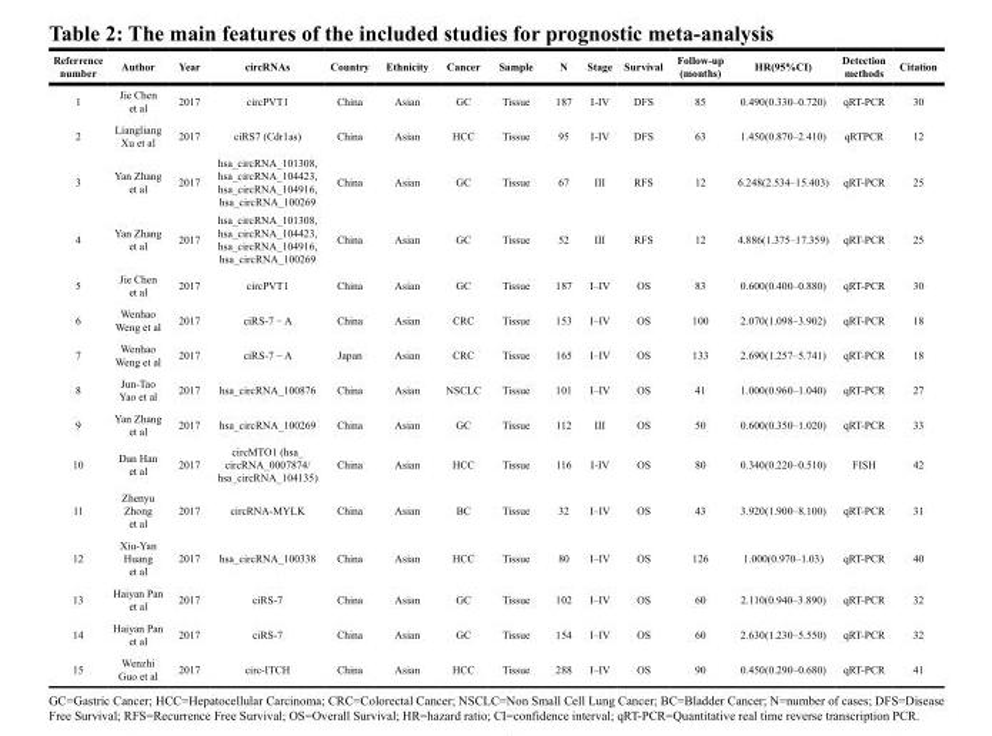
<table><thead><tr><td>Referrence number</td><td>Author</td><td>Year</td><td>circRNAs</td><td>Country</td><td>Ethnicity</td><td>Cancer</td><td>Sample</td><td>N</td><td>Stage</td><td>Survival</td><td>Follow-up (months)</td><td>HR(95%CI)</td><td>Detection methods</td><td>Citation</td></tr></thead><tbody><tr><td>1</td><td>Jie Chen et al</td><td>2017</td><td>circPVT1</td><td>China</td><td>Asian</td><td>GC</td><td>Tissue</td><td>187</td><td>I-IV</td><td>DFS</td><td>85</td><td>0.490(0.330–0.720)</td><td>qRT-PCR</td><td>30</td></tr><tr><td>2</td><td>Liangliang Xu et al</td><td>2017</td><td>ciRS7 (Cdr1as)</td><td>China</td><td>Asian</td><td>HCC</td><td>Tissue</td><td>95</td><td>I-IV</td><td>DFS</td><td>63</td><td>1.450(0.870–2.410)</td><td>qRTPCR</td><td>12</td></tr><tr><td>3</td><td>Yan Zhang et al</td><td>2017</td><td>hsa_circRNA_101308, hsa_circRNA_104423, hsa_circRNA_104916, hsa_circRNA_100269</td><td>China</td><td>Asian</td><td>GC</td><td>Tissue</td><td>67</td><td>III</td><td>RFS</td><td>12</td><td>6.248(2.534–15.403)</td><td>qRT-PCR</td><td>25</td></tr><tr><td>4</td><td>Yan Zhang et al</td><td>2017</td><td>hsa_circRNA_101308, hsa_circRNA_104423, hsa_circRNA_104916, hsa_circRNA_100269</td><td>China</td><td>Asian</td><td>GC</td><td>Tissue</td><td>52</td><td>III</td><td>RFS</td><td>12</td><td>4.886(1.375–17.359)</td><td>qRT-PCR</td><td>25</td></tr><tr><td>5</td><td>Jie Chen et al</td><td>2017</td><td>circPVT1</td><td>China</td><td>Asian</td><td>GC</td><td>Tissue</td><td>187</td><td>I–IV</td><td>OS</td><td>83</td><td>0.600(0.400–0.880)</td><td>qRT-PCR</td><td>30</td></tr><tr><td>6</td><td>Wenhao Weng et al</td><td>2017</td><td>ciRS-7 − A</td><td>China</td><td>Asian</td><td>CRC</td><td>Tissue</td><td>153</td><td>I–IV</td><td>OS</td><td>100</td><td>2.070(1.098–3.902)</td><td>qRT-PCR</td><td>18</td></tr><tr><td>7</td><td>Wenhao Weng et al</td><td>2017</td><td>ciRS-7 − A</td><td>Japan</td><td>Asian</td><td>CRC</td><td>Tissue</td><td>165</td><td>I–IV</td><td>OS</td><td>133</td><td>2.690(1.257–5.741)</td><td>qRT-PCR</td><td>18</td></tr><tr><td>8</td><td>Jun-Tao Yao et al</td><td>2017</td><td>hsa_circRNA_100876</td><td>China</td><td>Asian</td><td>NSCLC</td><td>Tissue</td><td>101</td><td>I–IV</td><td>OS</td><td>41</td><td>1.000(0.960–1.040)</td><td>qRT-PCR</td><td>27</td></tr><tr><td>9</td><td>Yan Zhang et al</td><td>2017</td><td>hsa_circRNA_100269</td><td>China</td><td>Asian</td><td>GC</td><td>Tissue</td><td>112</td><td>III</td><td>OS</td><td>50</td><td>0.600(0.350–1.020)</td><td>qRT-PCR</td><td>33</td></tr><tr><td>10</td><td>Dan Han et al</td><td>2017</td><td>circMTO1 (hsa_ circRNA_0007874/ hsa_circRNA_104135)</td><td>China</td><td>Asian</td><td>HCC</td><td>Tissue</td><td>116</td><td>I-IV</td><td>OS</td><td>80</td><td>0.340(0.220–0.510)</td><td>FISH</td><td>42</td></tr><tr><td>11</td><td>Zhenyu Zhong et al</td><td>2017</td><td>circRNA-MYLK</td><td>China</td><td>Asian</td><td>BC</td><td>Tissue</td><td>32</td><td>I–IV</td><td>OS</td><td>43</td><td>3.920(1.900–8.100)</td><td>qRT-PCR</td><td>31</td></tr><tr><td>12</td><td>Xiu-Yan Huang et al</td><td>2017</td><td>hsa_circRNA_100338</td><td>China</td><td>Asian</td><td>HCC</td><td>Tissue</td><td>80</td><td>I–IV</td><td>OS</td><td>126</td><td>1.000(0.970–1.03)</td><td>qRT-PCR</td><td>40</td></tr><tr><td>13</td><td>Haiyan Pan et al</td><td>2017</td><td>ciRS-7</td><td>China</td><td>Asian</td><td>GC</td><td>Tissue</td><td>102</td><td>I–IV</td><td>OS</td><td>60</td><td>2.110(0.940–3.890)</td><td>qRT-PCR</td><td>32</td></tr><tr><td>14</td><td>Haiyan Pan et al</td><td>2017</td><td>ciRS-7</td><td>China</td><td>Asian</td><td>GC</td><td>Tissue</td><td>154</td><td>I–IV</td><td>OS</td><td>60</td><td>2.630(1.230–5.550)</td><td>qRT-PCR</td><td>32</td></tr><tr><td>15</td><td>Wenzhi Guo et al</td><td>2017</td><td>circ-ITCH</td><td>China</td><td>Asian</td><td>HCC</td><td>Tissue</td><td>288</td><td>I–IV</td><td>OS</td><td>90</td><td>0.450(0.290–0.680)</td><td>qRT-PCR</td><td>41</td></tr></tbody></table>